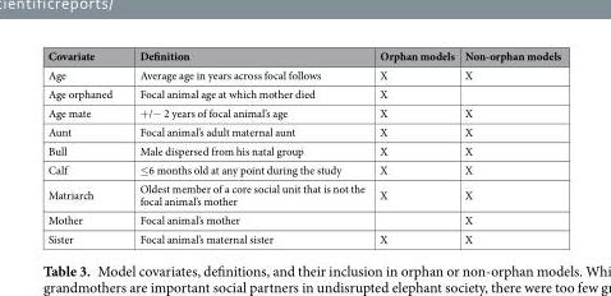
<table><thead><tr><td>Covariate</td><td>Definition</td><td>Orphan models</td><td>Non-orphan models</td></tr></thead><tbody><tr><td>Age</td><td>Average age in years across focal follows</td><td>X</td><td>X</td></tr><tr><td>Age orphaned</td><td>Focal animal age at which mother died</td><td>X</td><td></td></tr><tr><td>Age mate</td><td>+/− 2 years of focal animal’s age</td><td>X</td><td>X</td></tr><tr><td>Aunt</td><td>Focal animal’s adult maternal aunt</td><td>X</td><td>X</td></tr><tr><td>Bull</td><td>Male dispersed from his natal group</td><td>X</td><td>X</td></tr><tr><td>Calf</td><td>≤6 months old at any point during the study</td><td>X</td><td>X</td></tr><tr><td>Matriarch</td><td>Oldest member of a core social unit that is not the focal animal’s mother</td><td>X</td><td>X</td></tr><tr><td>Mother</td><td>Focal animal’s mother</td><td></td><td>X</td></tr><tr><td>Sister</td><td>Focal animal’s maternal sister</td><td>X</td><td>X</td></tr></tbody></table>